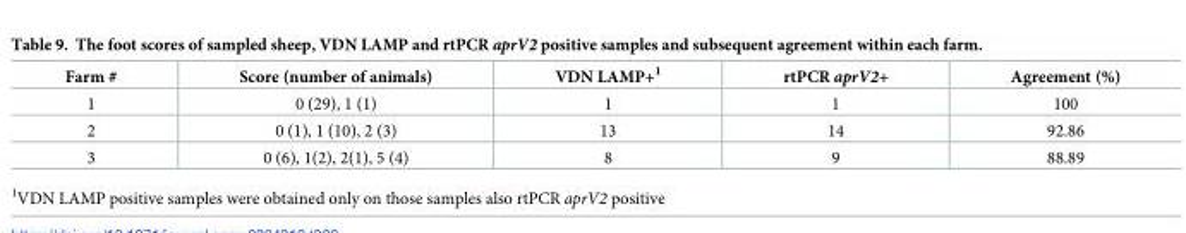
<table><thead><tr><td>Farm #</td><td>Score (number of animals)</td><td>VDN LAMP+<sup>1</sup></td><td>rtPCR aprV2+</td><td>Agreement (%)</td></tr></thead><tbody><tr><td>1</td><td>0 (29), 1 (1)</td><td>1</td><td>1</td><td>100</td></tr><tr><td>2</td><td>0 (1), 1 (10), 2 (3)</td><td>13</td><td>14</td><td>92.86</td></tr><tr><td>3</td><td>0 (6), 1(2), 2(1), 5 (4)</td><td>8</td><td>9</td><td>88.89</td></tr></tbody></table>